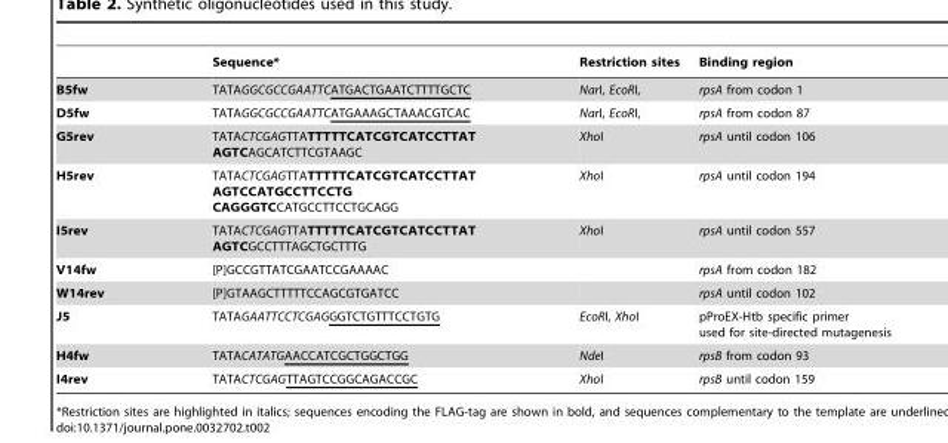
<table><thead><tr><td></td><td>Sequence*</td><td>Restriction sites</td><td>Binding region</td></tr></thead><tbody><tr><td>B5fw</td><td>TATAGGCGCCGAATTCATGACTGAATCTTTTGCTC</td><td>NarI, EcoRI,</td><td>rpsA from codon 1</td></tr><tr><td>D5fw</td><td>TATAGGCGCCGAATTCATGAAAGCTAAACGTCAC</td><td>NarI, EcoRI,</td><td>rpsA from codon 87</td></tr><tr><td>G5rev</td><td>TATACTCGAGTTATTTTTCATCGTCATCCTTAT AGTCAGCATCTTCGTAAGC</td><td>XhoI</td><td>rpsA until codon 106</td></tr><tr><td>H5rev</td><td>TATACTCGAGTTATTTTTCATCGTCATCCTTAT AGTCCATGCCTTCCTG CAGGGTCCATGCCTTCCTGCAGG</td><td>XhoI</td><td>rpsA until codon 194</td></tr><tr><td>I5rev</td><td>TATACTCGAGTTATTTTTCATCGTCATCCTTAT AGTCGCCTTTAGCTGCTTTG</td><td>XhoI</td><td>rpsA until codon 557</td></tr><tr><td>V14fw</td><td>[P]GCCGTTATCGAATCCGAAAAC</td><td></td><td>rpsA from codon 182</td></tr><tr><td>W14rev</td><td>[P]GTAAGCTTTTTCCAGCGTGATCC</td><td></td><td>rpsA until codon 102</td></tr><tr><td>J5</td><td>TATAGAATTCCTCGAGGGTCTGTTTCCTGTG</td><td>EcoRI, XhoI</td><td>pProEX-Htb specific primer used for site-directed mutagenesis</td></tr><tr><td>H4fw</td><td>TATACATATGAACCATCGCTGGCTGG</td><td>NdeI</td><td>rpsB from codon 93</td></tr><tr><td>I4rev</td><td>TATACTCGAGTTAGTCCGGCAGACCGC</td><td>XhoI</td><td>rpsB until codon 159</td></tr></tbody></table>